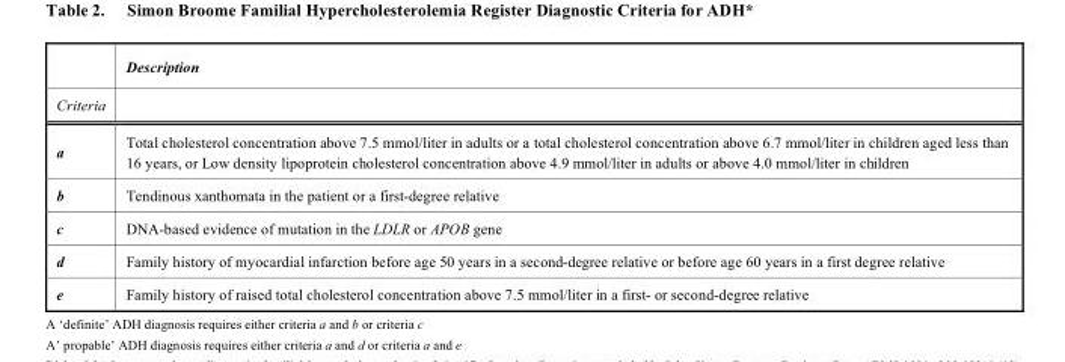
<table><thead><tr><td rowspan="2">Criteria</td><td rowspan="2">Description</td></tr><tr></tr></thead><tbody><tr><td>a</td><td>Total cholesterol concentration above 7.5 mmol/liter in adults or a total cholesterol concentration above 6.7 mmol/liter in children aged less than 16 years, or Low density lipoprotein cholesterol concentration above 4.9 mmol/liter in adults or above 4.0 mmol/liter in children</td></tr><tr><td>b</td><td>Tendinous xanthomata in the patient or a first-degree relative</td></tr><tr><td>c</td><td>DNA-based evidence of mutation in the LDLR or APOB gene</td></tr><tr><td>d</td><td>Family history of myocardial infarction before age 50 years in a second-degree relative or before age 60 years in a first degree relative</td></tr><tr><td>e</td><td>Family history of raised total cholesterol concentration above 7.5 mmol/liter in a first- or second-degree relative</td></tr></tbody></table>